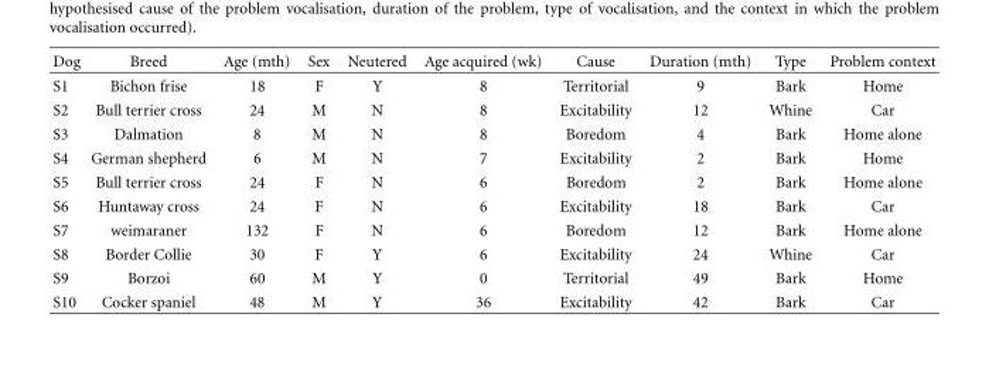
<table><thead><tr><td>Dog</td><td>Breed</td><td>Age (mth)</td><td>Sex</td><td>Neutered</td><td>Age acquired (wk)</td><td>Cause</td><td>Duration (mth)</td><td>Type</td><td>Problem context</td></tr></thead><tbody><tr><td>S1</td><td>Bichon frise</td><td>18</td><td>F</td><td>Y</td><td>8</td><td>Territorial</td><td>9</td><td>Bark</td><td>Home</td></tr><tr><td>S2</td><td>Bull terrier cross</td><td>24</td><td>M</td><td>N</td><td>8</td><td>Excitability</td><td>12</td><td>Whine</td><td>Car</td></tr><tr><td>S3</td><td>Dalmation</td><td>8</td><td>M</td><td>N</td><td>8</td><td>Boredom</td><td>4</td><td>Bark</td><td>Home alone</td></tr><tr><td>S4</td><td>German shepherd</td><td>6</td><td>M</td><td>N</td><td>7</td><td>Excitability</td><td>2</td><td>Bark</td><td>Home</td></tr><tr><td>S5</td><td>Bull terrier cross</td><td>24</td><td>F</td><td>N</td><td>6</td><td>Boredom</td><td>2</td><td>Bark</td><td>Home alone</td></tr><tr><td>S6</td><td>Huntaway cross</td><td>24</td><td>F</td><td>N</td><td>6</td><td>Excitability</td><td>18</td><td>Bark</td><td>Car</td></tr><tr><td>S7</td><td>weimaraner</td><td>132</td><td>F</td><td>N</td><td>6</td><td>Boredom</td><td>12</td><td>Bark</td><td>Home alone</td></tr><tr><td>S8</td><td>Border Collie</td><td>30</td><td>F</td><td>Y</td><td>6</td><td>Excitability</td><td>24</td><td>Whine</td><td>Car</td></tr><tr><td>S9</td><td>Borzoi</td><td>60</td><td>M</td><td>Y</td><td>0</td><td>Territorial</td><td>49</td><td>Bark</td><td>Home</td></tr><tr><td>S10</td><td>Cocker spaniel</td><td>48</td><td>M</td><td>Y</td><td>36</td><td>Excitability</td><td>42</td><td>Bark</td><td>Car</td></tr></tbody></table>